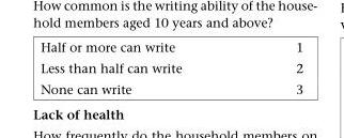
<table><tbody><tr><td>Half or more can write</td><td>1</td></tr><tr><td>Less than half can write</td><td>2</td></tr><tr><td>None can write</td><td>3</td></tr></tbody></table>